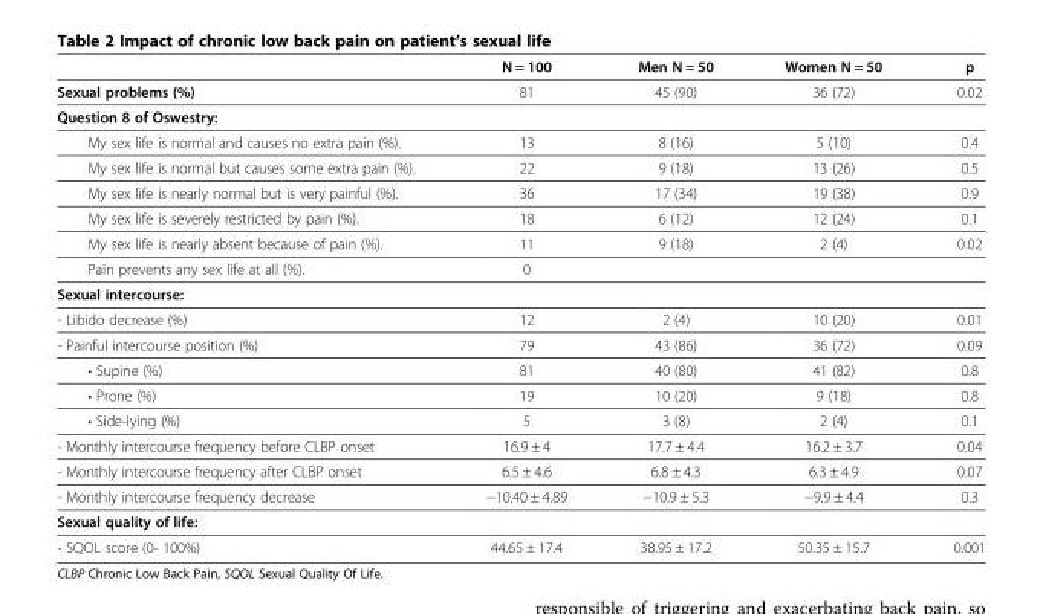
<table><thead><tr><td></td><td>N = 100</td><td>Men N = 50</td><td>Women N = 50</td><td>p</td></tr></thead><tbody><tr><td>Sexual problems (%)</td><td>81</td><td>45 (90)</td><td>36 (72)</td><td>0.02</td></tr><tr><td colspan="5">Question 8 of Oswestry:</td></tr><tr><td>My sex life is normal and causes no extra pain (%).</td><td>13</td><td>8 (16)</td><td>5 (10)</td><td>0.4</td></tr><tr><td>My sex life is normal but causes some extra pain (%).</td><td>22</td><td>9 (18)</td><td>13 (26)</td><td>0.5</td></tr><tr><td>My sex life is nearly normal but is very painful (%).</td><td>36</td><td>17 (34)</td><td>19 (38)</td><td>0.9</td></tr><tr><td>My sex life is severely restricted by pain (%).</td><td>18</td><td>6 (12)</td><td>12 (24)</td><td>0.1</td></tr><tr><td>My sex life is nearly absent because of pain (%).</td><td>11</td><td>9 (18)</td><td>2 (4)</td><td>0.02</td></tr><tr><td>Pain prevents any sex life at all (%).</td><td>0</td><td></td><td></td><td></td></tr><tr><td colspan="5">Sexual intercourse:</td></tr><tr><td>- Libido decrease (%)</td><td>12</td><td>2 (4)</td><td>10 (20)</td><td>0.01</td></tr><tr><td>- Painful intercourse position (%)</td><td>79</td><td>43 (86)</td><td>36 (72)</td><td>0.09</td></tr><tr><td>• Supine (%)</td><td>81</td><td>40 (80)</td><td>41 (82)</td><td>0.8</td></tr><tr><td>• Prone (%)</td><td>19</td><td>10 (20)</td><td>9 (18)</td><td>0.8</td></tr><tr><td>• Side-lying (%)</td><td>5</td><td>3 (8)</td><td>2 (4)</td><td>0.1</td></tr><tr><td>- Monthly intercourse frequency before CLBP onset</td><td>16.9 ± 4</td><td>17.7 ± 4.4</td><td>16.2 ± 3.7</td><td>0.04</td></tr><tr><td>- Monthly intercourse frequency after CLBP onset</td><td>6.5 ± 4.6</td><td>6.8 ± 4.3</td><td>6.3 ± 4.9</td><td>0.07</td></tr><tr><td>- Monthly intercourse frequency decrease</td><td>−10.40 ± 4.89</td><td>−10.9 ± 5.3</td><td>−9.9 ± 4.4</td><td>0.3</td></tr><tr><td colspan="5">Sexual quality of life:</td></tr><tr><td>- SQOL score (0- 100%)</td><td>44.65 ± 17.4</td><td>38.95 ± 17.2</td><td>50.35 ± 15.7</td><td>0.001</td></tr></tbody></table>